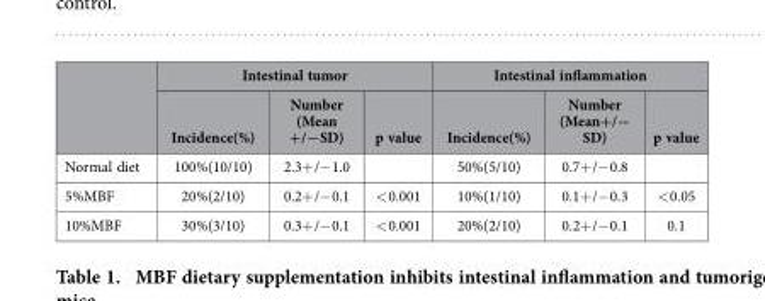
<table><thead><tr><td rowspan="2"></td><td colspan="3">Intestinal tumor</td><td colspan="3">Intestinal inflammation</td></tr><tr><td>Incidence(%)</td><td>Number (Mean +/−SD)</td><td>p value</td><td>Incidence(%)</td><td>Number (Mean+/− SD)</td><td>p value</td></tr></thead><tbody><tr><td>Normal diet</td><td>100%(10/10)</td><td>2.3+ /− 1.0</td><td></td><td>50%(5/10)</td><td>0.7+ /− 0.8</td><td></td></tr><tr><td>5%MBF</td><td>20%(2/10)</td><td>0.2+ /− 0.1</td><td>&lt; 0.001</td><td>10%(1/10)</td><td>0.1+ /− 0.3</td><td>&lt; 0.05</td></tr><tr><td>10%MBF</td><td>30%(3/10)</td><td>0.3+ /− 0.1</td><td>&lt; 0.001</td><td>20%(2/10)</td><td>0.2+ /− 0.1</td><td>0.1</td></tr></tbody></table>